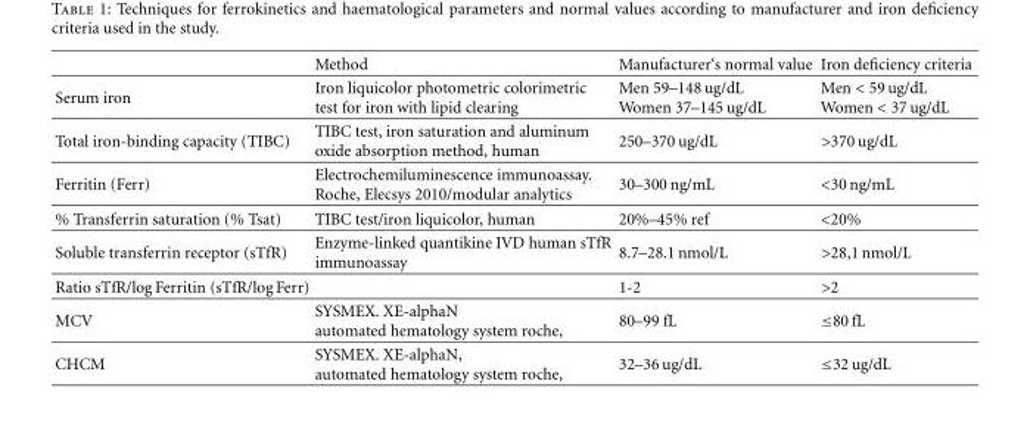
<table><thead><tr><td></td><td>Method</td><td>Manufacturer‘s normal value</td><td>Iron deficiency criteria</td></tr></thead><tbody><tr><td>Serum iron</td><td>Iron liquicolor photometric colorimetric test for iron with lipid clearing</td><td>Men 59–148 ug/dL Women 37–145 ug/dL</td><td>Men &lt; 59 ug/dL Women &lt; 37 ug/dL</td></tr><tr><td>Total iron-binding capacity (TIBC)</td><td>TIBC test, iron saturation and aluminum oxide absorption method, human</td><td>250–370 ug/dL</td><td>&gt;370 ug/dL</td></tr><tr><td>Ferritin (Ferr)</td><td>Electrochemiluminescence immunoassay. Roche, Elecsys 2010/modular analytics</td><td>30–300 ng/mL</td><td>&lt;30 ng/mL</td></tr><tr><td>% Transferrin saturation (% Tsat)</td><td>TIBC test/iron liquicolor, human</td><td>20%–45% ref</td><td>&lt;20%</td></tr><tr><td>Soluble transferrin receptor (sTfR)</td><td>Enzyme-linked quantikine IVD human sTfR immunoassay</td><td>8.7–28.1 nmol/L</td><td>&gt;28,1 nmol/L</td></tr><tr><td>Ratio sTfR/log Ferritin (sTfR/log Ferr)</td><td></td><td>1-2</td><td>&gt;2</td></tr><tr><td>MCV</td><td>SYSMEX. XE-alphaN automated hematology system roche,</td><td>80–99 fL</td><td>≤80 fL</td></tr><tr><td>CHCM</td><td>SYSMEX. XE-alphaN, automated hematology system roche,</td><td>32–36 ug/dL</td><td>≤32 ug/dL</td></tr></tbody></table>